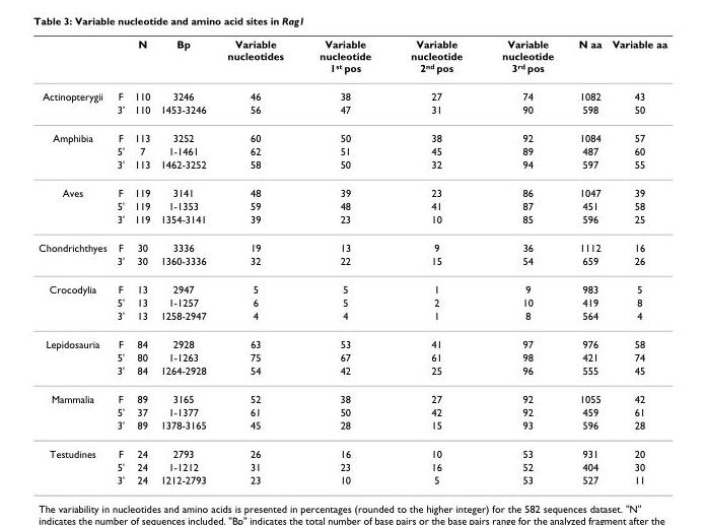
<table><thead><tr><td></td><td></td><td>N</td><td>Bp</td><td>Variable nucleotides</td><td>Variable nucleotide 1st pos</td><td>Variable nucleotide 2nd pos</td><td>Variable nucleotide 3rd pos</td><td>N aa</td><td>Variable aa</td></tr></thead><tbody><tr><td rowspan="2">Actinopterygii</td><td>F</td><td>110</td><td>3246</td><td>46</td><td>38</td><td>27</td><td>74</td><td>1082</td><td>43</td></tr><tr><td>3&#x27;</td><td>110</td><td>1453-3246</td><td>56</td><td>47</td><td>31</td><td>90</td><td>598</td><td>50</td></tr><tr><td rowspan="3">Amphibia</td><td>F</td><td>113</td><td>3252</td><td>60</td><td>50</td><td>38</td><td>92</td><td>1084</td><td>57</td></tr><tr><td>5&#x27;</td><td>7</td><td>1-1461</td><td>62</td><td>51</td><td>45</td><td>89</td><td>487</td><td>60</td></tr><tr><td>3&#x27;</td><td>113</td><td>1462-3252</td><td>58</td><td>50</td><td>32</td><td>94</td><td>597</td><td>55</td></tr><tr><td rowspan="3">Aves</td><td>F</td><td>119</td><td>3141</td><td>48</td><td>39</td><td>23</td><td>86</td><td>1047</td><td>39</td></tr><tr><td>5&#x27;</td><td>119</td><td>1-1353</td><td>59</td><td>48</td><td>41</td><td>87</td><td>451</td><td>58</td></tr><tr><td>3&#x27;</td><td>119</td><td>1354-3141</td><td>39</td><td>23</td><td>10</td><td>85</td><td>596</td><td>25</td></tr><tr><td rowspan="2">Chondrichthyes</td><td>F</td><td>30</td><td>3336</td><td>19</td><td>13</td><td>9</td><td>36</td><td>1112</td><td>16</td></tr><tr><td>3&#x27;</td><td>30</td><td>1360-3336</td><td>32</td><td>22</td><td>15</td><td>54</td><td>659</td><td>26</td></tr><tr><td rowspan="3">Crocodylia</td><td>F</td><td>13</td><td>2947</td><td>5</td><td>5</td><td>1</td><td>9</td><td>983</td><td>5</td></tr><tr><td>5&#x27;</td><td>13</td><td>1-1257</td><td>6</td><td>5</td><td>2</td><td>10</td><td>419</td><td>8</td></tr><tr><td>3&#x27;</td><td>13</td><td>1258-2947</td><td>4</td><td>4</td><td>1</td><td>8</td><td>564</td><td>4</td></tr><tr><td rowspan="3">Lepidosauria</td><td>F</td><td>84</td><td>2928</td><td>63</td><td>53</td><td>41</td><td>97</td><td>976</td><td>58</td></tr><tr><td>5&#x27;</td><td>80</td><td>1-1263</td><td>75</td><td>67</td><td>61</td><td>98</td><td>421</td><td>74</td></tr><tr><td>3&#x27;</td><td>84</td><td>1264-2928</td><td>54</td><td>42</td><td>25</td><td>96</td><td>555</td><td>45</td></tr><tr><td rowspan="3">Mammalia</td><td>F</td><td>89</td><td>3165</td><td>52</td><td>38</td><td>27</td><td>92</td><td>1055</td><td>42</td></tr><tr><td>5&#x27;</td><td>37</td><td>1-1377</td><td>61</td><td>50</td><td>42</td><td>92</td><td>459</td><td>61</td></tr><tr><td>3&#x27;</td><td>89</td><td>1378-3165</td><td>45</td><td>28</td><td>15</td><td>93</td><td>596</td><td>28</td></tr><tr><td rowspan="3">Testudines</td><td>F</td><td>24</td><td>2793</td><td>26</td><td>16</td><td>10</td><td>53</td><td>931</td><td>20</td></tr><tr><td>5&#x27;</td><td>24</td><td>1-1212</td><td>31</td><td>23</td><td>16</td><td>52</td><td>404</td><td>30</td></tr><tr><td>3&#x27;</td><td>24</td><td>1212-2793</td><td>23</td><td>10</td><td>5</td><td>53</td><td>527</td><td>11</td></tr></tbody></table>